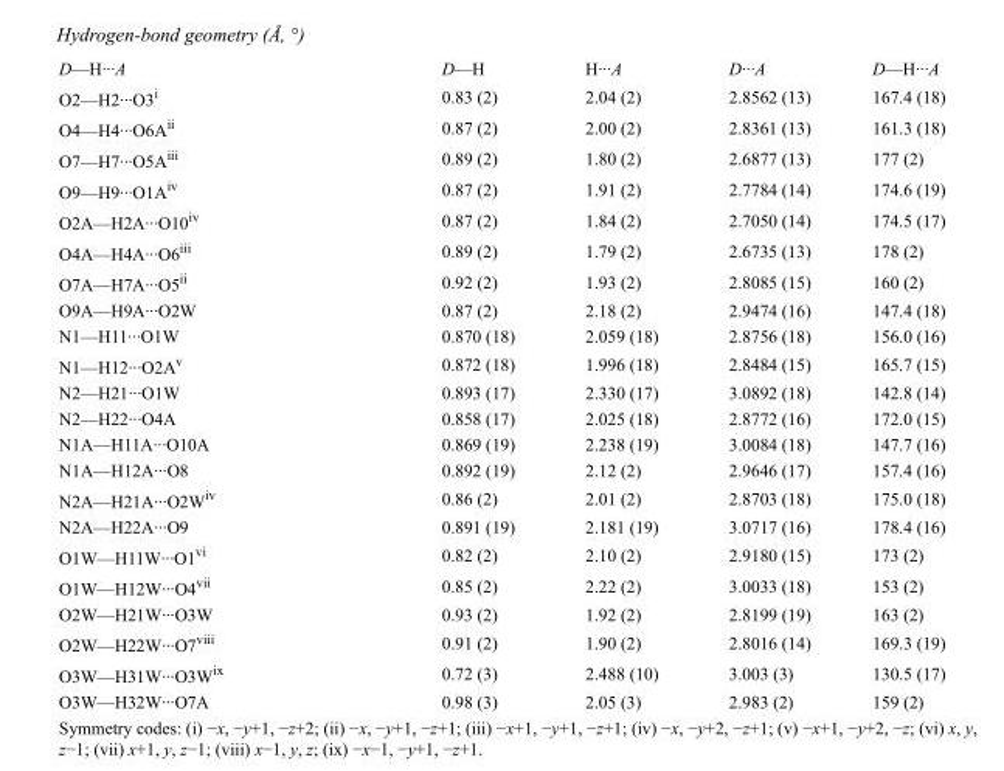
<table><tbody><tr><td>D—H···A</td><td>D—H</td><td>H···A</td><td>D···A</td><td>D—H···A</td></tr><tr><td>O2—H2···O3<sup>i</sup></td><td>0.83 (2)</td><td>2.04 (2)</td><td>2.8562 (13)</td><td>167.4 (18)</td></tr><tr><td>O4—H4···O6A<sup>ii</sup></td><td>0.87 (2)</td><td>2.00 (2)</td><td>2.8361 (13)</td><td>161.3 (18)</td></tr><tr><td>O7—H7···O5A<sup>iii</sup></td><td>0.89 (2)</td><td>1.80 (2)</td><td>2.6877 (13)</td><td>177 (2)</td></tr><tr><td>O9—H9···O1A<sup>iv</sup></td><td>0.87 (2)</td><td>1.91 (2)</td><td>2.7784 (14)</td><td>174.6 (19)</td></tr><tr><td>O2A—H2A···O10<sup>iv</sup></td><td>0.87 (2)</td><td>1.84 (2)</td><td>2.7050 (14)</td><td>174.5 (17)</td></tr><tr><td>O4A—H4A···O6<sup>iii</sup></td><td>0.89 (2)</td><td>1.79 (2)</td><td>2.6735 (13)</td><td>178 (2)</td></tr><tr><td>O7A—H7A···O5<sup>ii</sup></td><td>0.92 (2)</td><td>1.93 (2)</td><td>2.8085 (15)</td><td>160 (2)</td></tr><tr><td>O9A—H9A···O2W</td><td>0.87 (2)</td><td>2.18 (2)</td><td>2.9474 (16)</td><td>147.4 (18)</td></tr><tr><td>N1—H11···O1W</td><td>0.870 (18)</td><td>2.059 (18)</td><td>2.8756 (18)</td><td>156.0 (16)</td></tr><tr><td>N1—H12···O2A<sup>v</sup></td><td>0.872 (18)</td><td>1.996 (18)</td><td>2.8484 (15)</td><td>165.7 (15)</td></tr><tr><td>N2—H21···O1W</td><td>0.893 (17)</td><td>2.330 (17)</td><td>3.0892 (18)</td><td>142.8 (14)</td></tr><tr><td>N2—H22···O4A</td><td>0.858 (17)</td><td>2.025 (18)</td><td>2.8772 (16)</td><td>172.0 (15)</td></tr><tr><td>N1A—H11A···O10A</td><td>0.869 (19)</td><td>2.238 (19)</td><td>3.0084 (18)</td><td>147.7 (16)</td></tr><tr><td>N1A—H12A···O8</td><td>0.892 (19)</td><td>2.12 (2)</td><td>2.9646 (17)</td><td>157.4 (16)</td></tr><tr><td>N2A—H21A···O2W<sup>iv</sup></td><td>0.86 (2)</td><td>2.01 (2)</td><td>2.8703 (18)</td><td>175.0 (18)</td></tr><tr><td>N2A—H22A···O9</td><td>0.891 (19)</td><td>2.181 (19)</td><td>3.0717 (16)</td><td>178.4 (16)</td></tr><tr><td>O1W—H11W···O1<sup>vi</sup></td><td>0.82 (2)</td><td>2.10 (2)</td><td>2.9180 (15)</td><td>173 (2)</td></tr><tr><td>O1W—H12W···O4<sup>vii</sup></td><td>0.85 (2)</td><td>2.22 (2)</td><td>3.0033 (18)</td><td>153 (2)</td></tr><tr><td>O2W—H21W···O3W</td><td>0.93 (2)</td><td>1.92 (2)</td><td>2.8199 (19)</td><td>163 (2)</td></tr><tr><td>O2W—H22W···O7<sup>viii</sup></td><td>0.91 (2)</td><td>1.90 (2)</td><td>2.8016 (14)</td><td>169.3 (19)</td></tr><tr><td>O3W—H31W···O3W<sup>ix</sup></td><td>0.72 (3)</td><td>2.488 (10)</td><td>3.003 (3)</td><td>130.5 (17)</td></tr><tr><td>O3W—H32W···O7A</td><td>0.98 (3)</td><td>2.05 (3)</td><td>2.983 (2)</td><td>159 (2)</td></tr></tbody></table>